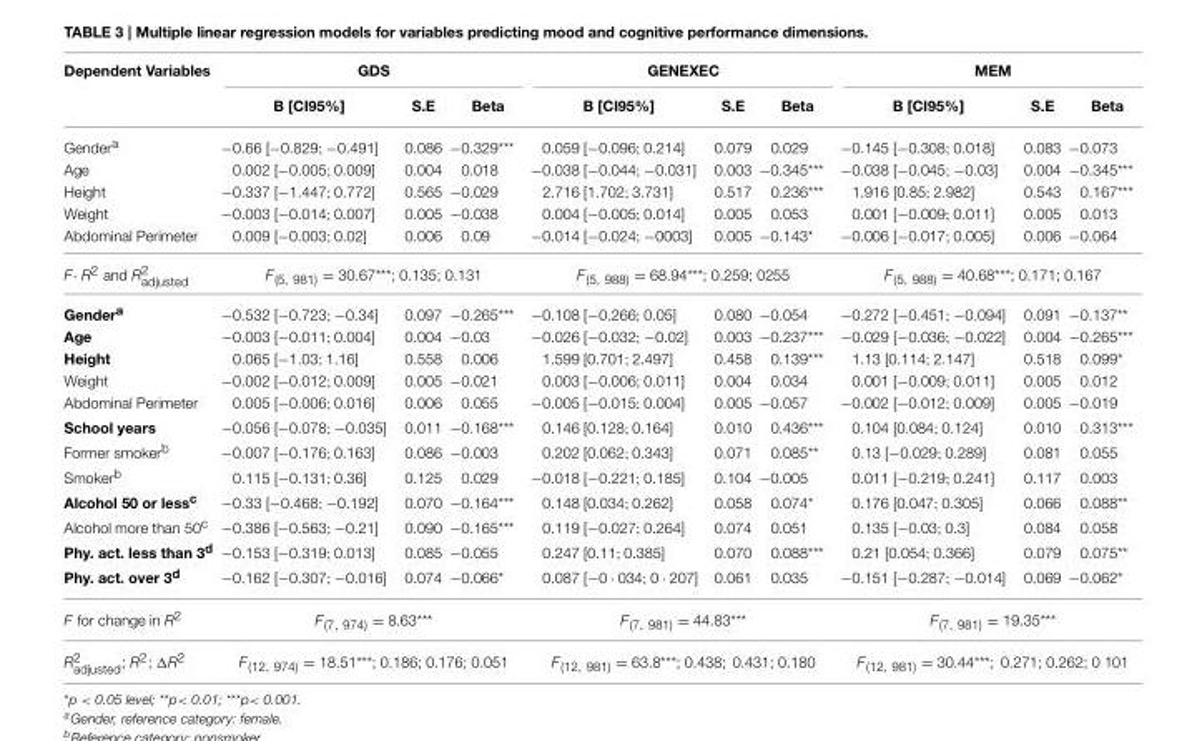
<table><thead><tr><td rowspan="2">Dependent Variables</td><td colspan="3">GDS</td><td colspan="3">GENEXEC</td><td colspan="3">MEM</td></tr><tr><td>B [CI95%]</td><td>S.E</td><td>Beta</td><td>B [CI95%]</td><td>S.E</td><td>Beta</td><td>B [CI95%]</td><td>S.E</td><td>Beta</td></tr></thead><tbody><tr><td>Gender<sup>a</sup></td><td>−0.66 [−0.829; −0.491]</td><td>0.086</td><td>−0.329***</td><td>0.059 [−0.096; 0.214]</td><td>0.079</td><td>0.029</td><td>−0.145 [−0.308; 0.018]</td><td>0.083</td><td>−0.073</td></tr><tr><td>Age</td><td>0.002 [−0.005; 0.009]</td><td>0.004</td><td>0.018</td><td>−0.038 [−0.044; −0.031]</td><td>0.003</td><td>−0.345***</td><td>−0.038 [−0.045; −0.03]</td><td>0.004</td><td>−0.345***</td></tr><tr><td>Height</td><td>−0.337 [−1.447; 0.772]</td><td>0.565</td><td>−0.029</td><td>2.716 [1.702; 3.731]</td><td>0.517</td><td>0.236***</td><td>1.916 [0.85; 2.982]</td><td>0.543</td><td>0.167***</td></tr><tr><td>Weight</td><td>−0.003 [−0.014; 0.007]</td><td>0.005</td><td>−0.038</td><td>0.004 [−0.005; 0.014]</td><td>0.005</td><td>0.053</td><td>0.001 [−0.009; 0.011]</td><td>0.005</td><td>0.013</td></tr><tr><td>Abdominal Perimeter</td><td>0.009 [−0.003; 0.02]</td><td>0.006</td><td>0.09</td><td>−0.014 [−0.024; −0003]</td><td>0.005</td><td>−0.143*</td><td>−0.006 [−0.017; 0.005]</td><td>0.006</td><td>−0.064</td></tr><tr><td>F· R<sup>2</sup> and R<sup>2</sup> <sub>adjusted</sub></td><td colspan="3">F<sub>(5, 981)</sub> = 30.67***; 0.135; 0.131</td><td colspan="3">F<sub>(5, 988)</sub> = 68.94***; 0.259; 0255</td><td colspan="3">F<sub>(5, 988)</sub> = 40.68***; 0.171; 0.167</td></tr><tr><td>Gender<sup>a</sup></td><td>−0.532 [−0.723; −0.34]</td><td>0.097</td><td>−0.265***</td><td>−0.108 [−0.266; 0.05]</td><td>0.080</td><td>−0.054</td><td>−0.272 [−0.451; −0.094]</td><td>0.091</td><td>−0.137**</td></tr><tr><td>Age</td><td>−0.003 [−0.011; 0.004]</td><td>0.004</td><td>−0.03</td><td>−0.026 [−0.032; −0.02]</td><td>0.003</td><td>−0.237***</td><td>−0.029 [−0.036; −0.022]</td><td>0.004</td><td>−0.265***</td></tr><tr><td>Height</td><td>0.065 [−1.03; 1.16]</td><td>0.558</td><td>0.006</td><td>1.599 [0.701; 2.497]</td><td>0.458</td><td>0.139***</td><td>1.13 [0.114; 2.147]</td><td>0.518</td><td>0.099*</td></tr><tr><td>Weight</td><td>−0.002 [−0.012; 0.009]</td><td>0.005</td><td>−0.021</td><td>0.003 [−0.006; 0.011]</td><td>0.004</td><td>0.034</td><td>0.001 [−0.009; 0.011]</td><td>0.005</td><td>0.012</td></tr><tr><td>Abdominal Perimeter</td><td>0.005 [−0.006; 0.016]</td><td>0.006</td><td>0.055</td><td>−0.005 [−0.015; 0.004]</td><td>0.005</td><td>−0.057</td><td>−0.002 [−0.012; 0.009]</td><td>0.005</td><td>−0.019</td></tr><tr><td>School years</td><td>−0.056 [−0.078; −0.035]</td><td>0.011</td><td>−0.168***</td><td>0.146 [0.128; 0.164]</td><td>0.010</td><td>0.436***</td><td>0.104 [0.084; 0.124]</td><td>0.010</td><td>0.313***</td></tr><tr><td>Former smoker<sup>b</sup></td><td>−0.007 [−0.176; 0.163]</td><td>0.086</td><td>−0.003</td><td>0.202 [0.062; 0.343]</td><td>0.071</td><td>0.085**</td><td>0.13 [−0.029; 0.289]</td><td>0.081</td><td>0.055</td></tr><tr><td>Smoker<sup>b</sup></td><td>0.115 [−0.131; 0.36]</td><td>0.125</td><td>0.029</td><td>−0.018 [−0.221; 0.185]</td><td>0.104</td><td>−0.005</td><td>0.011 [−0.219; 0.241]</td><td>0.117</td><td>0.003</td></tr><tr><td>Alcohol 50 or less<sup>c</sup></td><td>−0.33 [−0.468; −0.192]</td><td>0.070</td><td>−0.164***</td><td>0.148 [0.034; 0.262]</td><td>0.058</td><td>0.074*</td><td>0.176 [0.047; 0.305]</td><td>0.066</td><td>0.088**</td></tr><tr><td>Alcohol more than 50<sup>c</sup></td><td>−0.386 [−0.563; −0.21]</td><td>0.090</td><td>−0.165***</td><td>0.119 [−0.027; 0.264]</td><td>0.074</td><td>0.051</td><td>0.135 [−0.03; 0.3]</td><td>0.084</td><td>0.058</td></tr><tr><td>Phy. act. less than 3<sup>d</sup></td><td>−0.153 [−0.319; 0.013]</td><td>0.085</td><td>−0.055</td><td>0.247 [0.11; 0.385]</td><td>0.070</td><td>0.088***</td><td>0.21 [0.054; 0.366]</td><td>0.079</td><td>0.075**</td></tr><tr><td>Phy. act. over 3<sup>d</sup></td><td>−0.162 [−0.307; −0.016]</td><td>0.074</td><td>−0.066*</td><td>0.087 [−0 · 034; 0 · 207]</td><td>0.061</td><td>0.035</td><td>−0.151 [−0.287; −0.014]</td><td>0.069</td><td>−0.062*</td></tr><tr><td>F for change in R<sup>2</sup></td><td colspan="3">F<sub>(7, 974)</sub> = 8.63***</td><td colspan="3">F<sub>(7, 981)</sub> = 44.83***</td><td colspan="3">F<sub>(7, 981)</sub> = 19.35***</td></tr><tr><td>R<sup>2</sup> <sub>adjusted</sub>; R<sup>2</sup>; ΔR<sup>2</sup></td><td colspan="3">F<sub>(12, 974)</sub> = 18.51***; 0.186; 0.176; 0.051</td><td colspan="3">F<sub>(12, 981)</sub> = 63.8***; 0.438; 0.431; 0.180</td><td colspan="3">F<sub>(12, 981)</sub> = 30.44***; 0.271; 0.262; 0 101</td></tr></tbody></table>